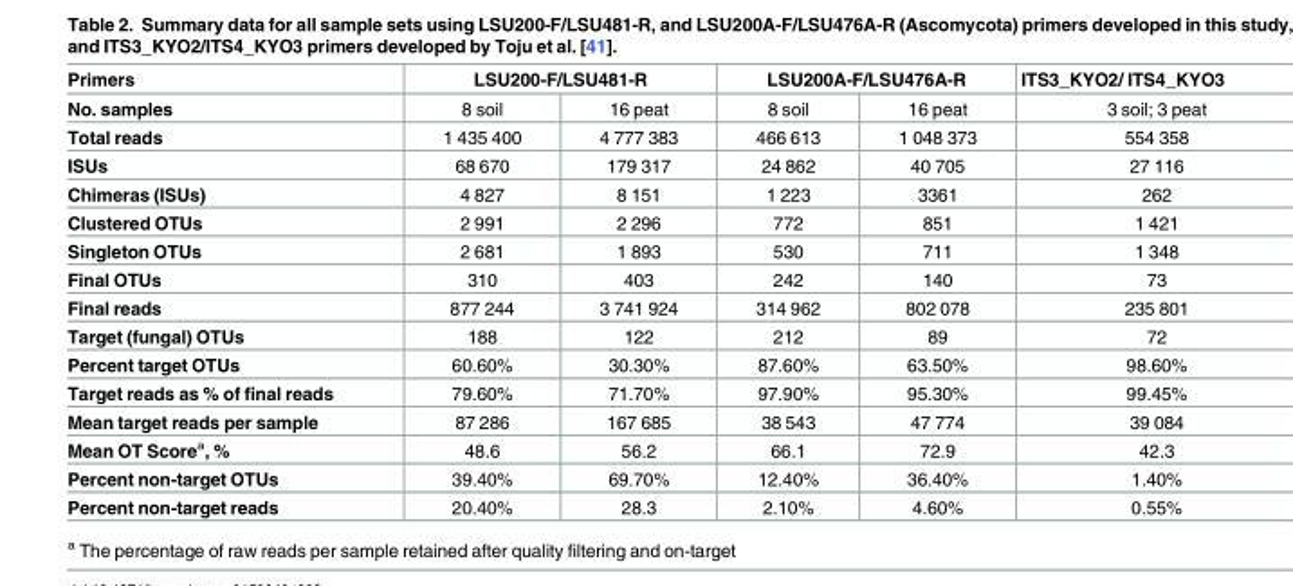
<table><thead><tr><td rowspan="2">Primers No. samples</td><td colspan="2">LSU200-F/LSU481-R</td><td colspan="2">LSU200A-F/LSU476A-R</td><td rowspan="2">ITS3_KYO2/ ITS4_KYO3 3 soil; 3 peat</td></tr><tr><td>8 soil</td><td>16 peat</td><td>8 soil</td><td>16 peat</td></tr></thead><tbody><tr><td>Total reads</td><td>1 435 400</td><td>4 777 383</td><td>466 613</td><td>1 048 373</td><td>554 358</td></tr><tr><td>ISUs</td><td>68 670</td><td>179 317</td><td>24 862</td><td>40 705</td><td>27 116</td></tr><tr><td>Chimeras (ISUs)</td><td>4 827</td><td>8 151</td><td>1 223</td><td>3361</td><td>262</td></tr><tr><td>Clustered OTUs</td><td>2 991</td><td>2 296</td><td>772</td><td>851</td><td>1 421</td></tr><tr><td>Singleton OTUs</td><td>2 681</td><td>1 893</td><td>530</td><td>711</td><td>1 348</td></tr><tr><td>Final OTUs</td><td>310</td><td>403</td><td>242</td><td>140</td><td>73</td></tr><tr><td>Final reads</td><td>877 244</td><td>3 741 924</td><td>314 962</td><td>802 078</td><td>235 801</td></tr><tr><td>Target (fungal) OTUs</td><td>188</td><td>122</td><td>212</td><td>89</td><td>72</td></tr><tr><td>Percent target OTUs</td><td>60.60%</td><td>30.30%</td><td>87.60%</td><td>63.50%</td><td>98.60%</td></tr><tr><td>Target reads as % of final reads</td><td>79.60%</td><td>71.70%</td><td>97.90%</td><td>95.30%</td><td>99.45%</td></tr><tr><td>Mean target reads per sample</td><td>87 286</td><td>167 685</td><td>38 543</td><td>47 774</td><td>39 084</td></tr><tr><td>Mean OT Score<sup>a</sup>, %</td><td>48.6</td><td>56.2</td><td>66.1</td><td>72.9</td><td>42.3</td></tr><tr><td>Percent non-target OTUs</td><td>39.40%</td><td>69.70%</td><td>12.40%</td><td>36.40%</td><td>1.40%</td></tr><tr><td>Percent non-target reads</td><td>20.40%</td><td>28.3</td><td>2.10%</td><td>4.60%</td><td>0.55%</td></tr></tbody></table>